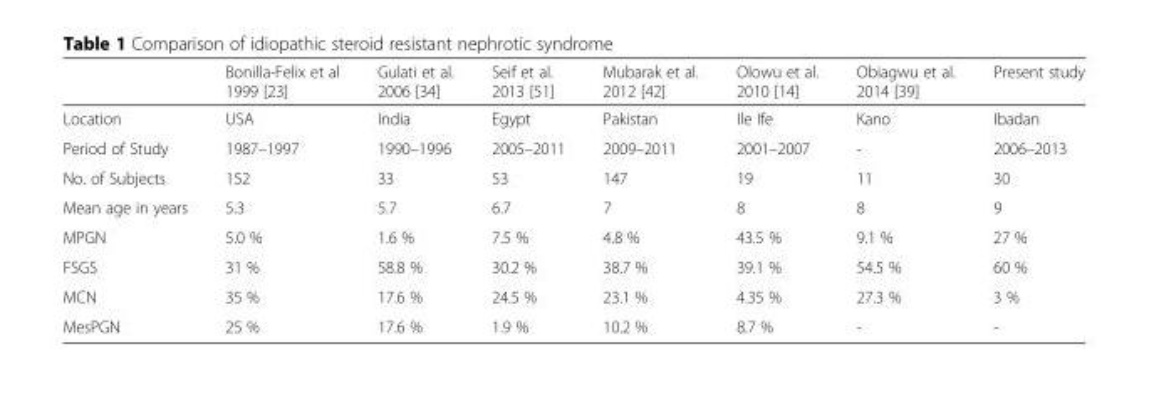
<table><thead><tr><td></td><td>Bonilla-Felix et al 1999 [23]</td><td>Gulati et al. 2006 [34]</td><td>Seif et al. 2013 [51]</td><td>Mubarak et al. 2012 [42]</td><td>Olowu et al. 2010 [14]</td><td>Obiagwu et al. 2014 [39]</td><td>Present study</td></tr></thead><tbody><tr><td>Location</td><td>USA</td><td>India</td><td>Egypt</td><td>Pakistan</td><td>Ile Ife</td><td>Kano</td><td>Ibadan</td></tr><tr><td>Period of Study</td><td>1987–1997</td><td>1990–1996</td><td>2005–2011</td><td>2009–2011</td><td>2001–2007</td><td>-</td><td>2006–2013</td></tr><tr><td>No. of Subjects</td><td>152</td><td>33</td><td>53</td><td>147</td><td>19</td><td>11</td><td>30</td></tr><tr><td>Mean age in years</td><td>5.3</td><td>5.7</td><td>6.7</td><td>7</td><td>8</td><td>8</td><td>9</td></tr><tr><td>MPGN</td><td>5.0 %</td><td>1.6 %</td><td>7.5 %</td><td>4.8 %</td><td>43.5 %</td><td>9.1 %</td><td>27 %</td></tr><tr><td>FSGS</td><td>31 %</td><td>58.8 %</td><td>30.2 %</td><td>38.7 %</td><td>39.1 %</td><td>54.5 %</td><td>60 %</td></tr><tr><td>MCN</td><td>35 %</td><td>17.6 %</td><td>24.5 %</td><td>23.1 %</td><td>4.35 %</td><td>27.3 %</td><td>3 %</td></tr><tr><td>MesPGN</td><td>25 %</td><td>17.6 %</td><td>1.9 %</td><td>10.2 %</td><td>8.7 %</td><td>-</td><td>-</td></tr></tbody></table>